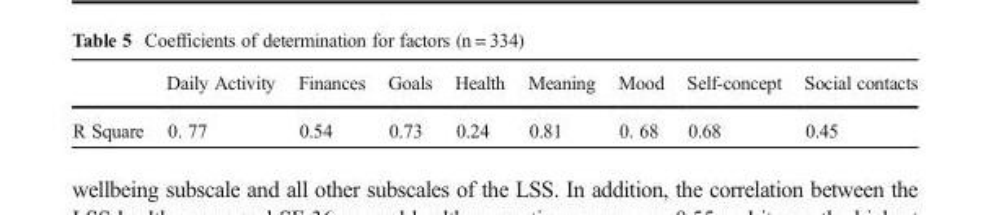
<table><thead><tr><td></td><td>Daily Activity</td><td>Finances</td><td>Goals</td><td>Health</td><td>Meaning</td><td>Mood</td><td>Self-concept</td><td>Social contacts</td></tr></thead><tbody><tr><td>R Square</td><td>0. 77</td><td>0.54</td><td>0.73</td><td>0.24</td><td>0.81</td><td>0. 68</td><td>0.68</td><td>0.45</td></tr></tbody></table>